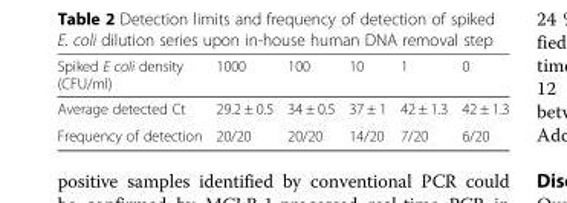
<table><thead><tr><td>Spiked E coli density (CFU/ml)</td><td>1000</td><td>100</td><td>10</td><td>1</td><td>0</td></tr></thead><tbody><tr><td>Average detected Ct</td><td>29.2 ± 0.5</td><td>34 ± 0.5</td><td>37 ± 1</td><td>42 ± 1.3</td><td>42 ± 1.3</td></tr><tr><td>Frequency of detection</td><td>20/20</td><td>20/20</td><td>14/20</td><td>7/20</td><td>6/20</td></tr></tbody></table>